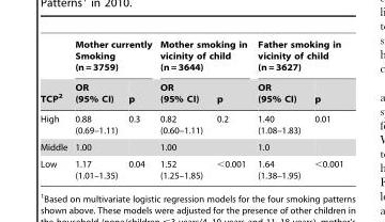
<table><thead><tr><td rowspan="2">TCP<sup>2</sup></td><td colspan="2">Mother currently Smoking (n = 3759)</td><td colspan="2">Mother smoking in vicinity of child (n = 3644)</td><td colspan="2">Father smoking in vicinity of child (n = 3627)</td></tr><tr><td>OR (95% CI)</td><td>p</td><td>OR (95% CI)</td><td>p</td><td>OR (95% CI)</td><td>p</td></tr></thead><tbody><tr><td>High</td><td>0.88 (0.69–1.11)</td><td>0.3</td><td>0.82 (0.60–1.11)</td><td>0.2</td><td>1.40 (1.08–1.83)</td><td>0.01</td></tr><tr><td>Middle</td><td>1.00</td><td></td><td>1.00</td><td></td><td>1.0</td><td></td></tr><tr><td>Low</td><td>1.17 (1.01–1.35)</td><td>0.04</td><td>1.52 (1.25–1.85)</td><td>&lt;0.001</td><td>1.64 (1.38–1.95)</td><td>&lt;0.001</td></tr></tbody></table>